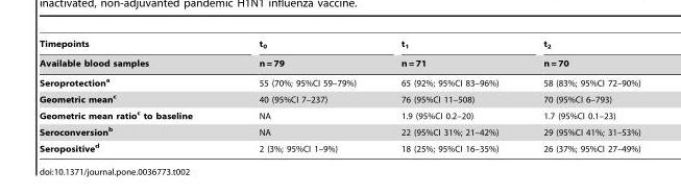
<table><thead><tr><td rowspan="2">Timepoints Available blood samples</td><td rowspan="2">t<sub>0</sub> n = 79</td><td rowspan="2">t<sub>1</sub> n = 71</td><td rowspan="2">t<sub>2</sub> n = 70</td></tr><tr></tr></thead><tbody><tr><td>Seroprotection<sup>a</sup></td><td>55 (70%; 95%CI 59–79%)</td><td>65 (92%; 95%CI 83–96%)</td><td>58 (83%; 95%CI 72–90%)</td></tr><tr><td>Geometric mean<sup>c</sup></td><td>40 (95%CI 7–237)</td><td>76 (95%CI 11–508)</td><td>70 (95%CI 6–793)</td></tr><tr><td>Geometric mean ratio<sup>c</sup> to baseline</td><td>NA</td><td>1.9 (95%CI 0.2–20)</td><td>1.7 (95%CI 0.1–23)</td></tr><tr><td>Seroconversion<sup>b</sup></td><td>NA</td><td>22 (95%CI 31%; 21–42%)</td><td>29 (95%CI 41%; 31–53%)</td></tr><tr><td>Seropositive<sup>d</sup></td><td>2 (3%; 95%CI 1–9%)</td><td>18 (25%; 95%CI 16–35%)</td><td>26 (37%; 95%CI 27–49%)</td></tr></tbody></table>